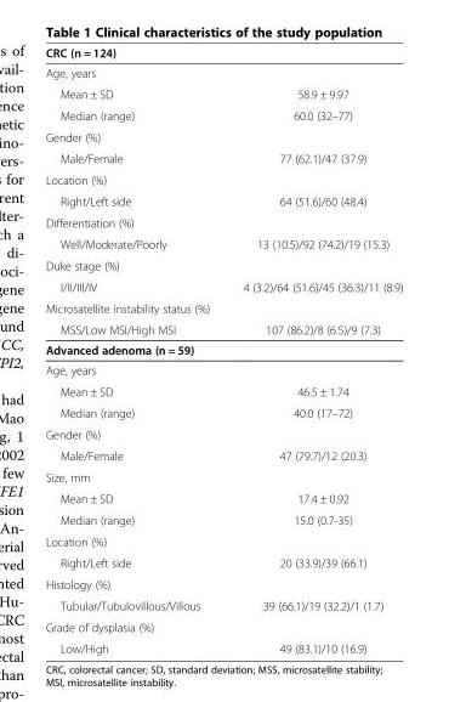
<table><thead><tr><td>CRC (n = 124)</td><td></td></tr></thead><tbody><tr><td colspan="2">Age, years</td></tr><tr><td>Mean ± SD</td><td>58.9 ± 9.97</td></tr><tr><td>Median (range)</td><td>60.0 (32–77)</td></tr><tr><td colspan="2">Gender (%)</td></tr><tr><td>Male/Female</td><td>77 (62.1)/47 (37.9)</td></tr><tr><td colspan="2">Location (%)</td></tr><tr><td>Right/Left side</td><td>64 (51.6)/60 (48.4)</td></tr><tr><td colspan="2">Differentiation (%)</td></tr><tr><td>Well/Moderate/Poorly</td><td>13 (10.5)/92 (74.2)/19 (15.3)</td></tr><tr><td colspan="2">Duke stage (%)</td></tr><tr><td>I/II/III/IV</td><td>4 (3.2)/64 (51.6)/45 (36.3)/11 (8.9)</td></tr><tr><td colspan="2">Microsatellite instability status (%)</td></tr><tr><td>MSS/Low MSI/High MSI</td><td>107 (86.2)/8 (6.5)/9 (7.3)</td></tr><tr><td colspan="2">Advanced adenoma (n = 59)</td></tr><tr><td colspan="2">Age, years</td></tr><tr><td>Mean ± SD</td><td>46.5 ± 1.74</td></tr><tr><td>Median (range)</td><td>40.0 (17–72)</td></tr><tr><td colspan="2">Gender (%)</td></tr><tr><td>Male/Female</td><td>47 (79.7)/12 (20.3)</td></tr><tr><td colspan="2">Size, mm</td></tr><tr><td>Mean ± SD</td><td>17.4 ± 0.92</td></tr><tr><td>Median (range)</td><td>15.0 (0.7-35)</td></tr><tr><td colspan="2">Location (%)</td></tr><tr><td>Right/Left side</td><td>20 (33.9)/39 (66.1)</td></tr><tr><td colspan="2">Histology (%)</td></tr><tr><td>Tubular/Tubulovillous/Villous</td><td>39 (66.1)/19 (32.2)/1 (1.7)</td></tr><tr><td colspan="2">Grade of dysplasia (%)</td></tr><tr><td>Low/High</td><td>49 (83.1)/10 (16.9)</td></tr></tbody></table>